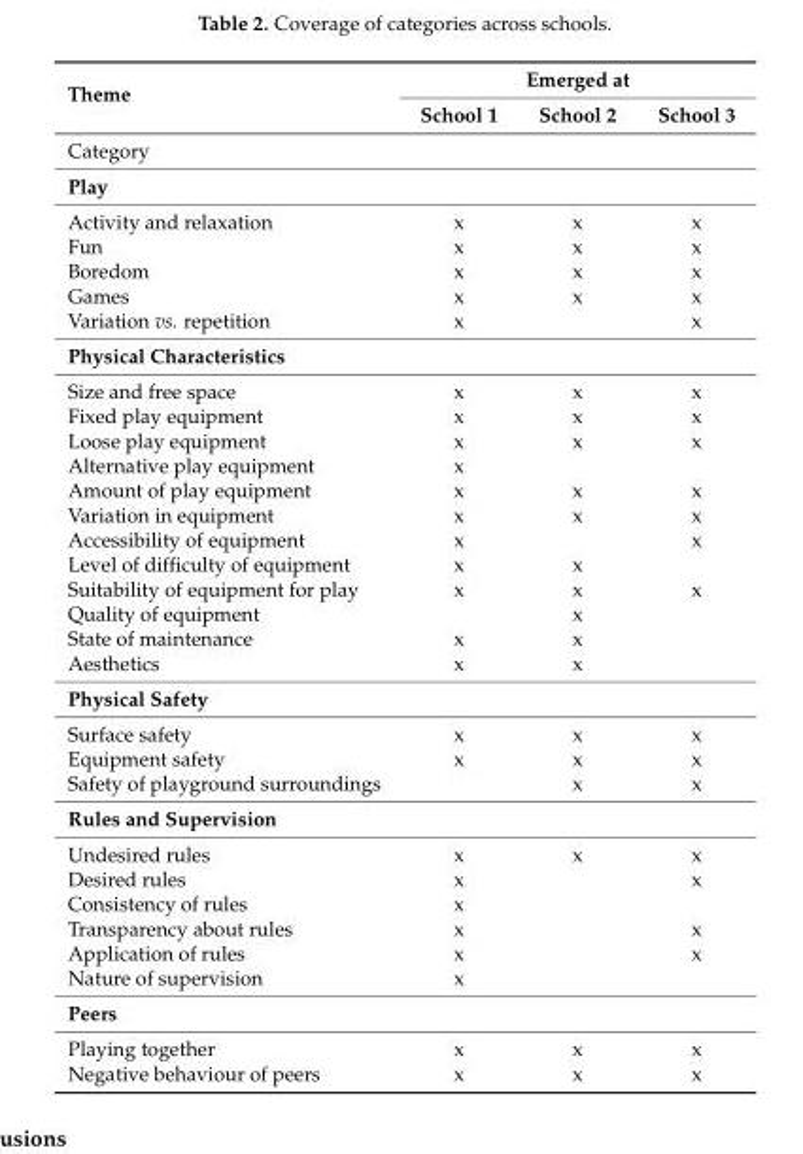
<table><thead><tr><td rowspan="2">Theme</td><td colspan="3">Emerged at</td></tr><tr><td>School 1</td><td>School 2</td><td>School 3</td></tr></thead><tbody><tr><td colspan="4">Category</td></tr><tr><td colspan="4">Play</td></tr><tr><td>Activity and relaxation</td><td>x</td><td>x</td><td>x</td></tr><tr><td>Fun</td><td>x</td><td>x</td><td>x</td></tr><tr><td>Boredom</td><td>x</td><td>x</td><td>x</td></tr><tr><td>Games</td><td>x</td><td>x</td><td>x</td></tr><tr><td>Variation vs. repetition</td><td>x</td><td></td><td>x</td></tr><tr><td colspan="4">Physical Characteristics</td></tr><tr><td>Size and free space</td><td>x</td><td>x</td><td>x</td></tr><tr><td>Fixed play equipment</td><td>x</td><td>x</td><td>x</td></tr><tr><td>Loose play equipment</td><td>x</td><td>x</td><td>x</td></tr><tr><td>Alternative play equipment</td><td>x</td><td></td><td></td></tr><tr><td>Amount of play equipment</td><td>x</td><td>x</td><td>x</td></tr><tr><td>Variation in equipment</td><td>x</td><td>x</td><td>x</td></tr><tr><td>Accessibility of equipment</td><td>x</td><td></td><td>x</td></tr><tr><td>Level of difficulty of equipment</td><td>x</td><td>x</td><td></td></tr><tr><td>Suitability of equipment for play</td><td>x</td><td>x</td><td>x</td></tr><tr><td>Quality of equipment</td><td></td><td>x</td><td></td></tr><tr><td>State of maintenance</td><td>x</td><td>x</td><td></td></tr><tr><td>Aesthetics</td><td>x</td><td>x</td><td></td></tr><tr><td colspan="4">Physical Safety</td></tr><tr><td>Surface safety</td><td>x</td><td>x</td><td>x</td></tr><tr><td>Equipment safety</td><td>x</td><td>x</td><td>x</td></tr><tr><td>Safety of playground surroundings</td><td></td><td>x</td><td>x</td></tr><tr><td colspan="4">Rules and Supervision</td></tr><tr><td>Undesired rules</td><td>x</td><td>x</td><td>x</td></tr><tr><td>Desired rules</td><td>x</td><td></td><td>x</td></tr><tr><td>Consistency of rules</td><td>x</td><td></td><td></td></tr><tr><td>Transparency about rules</td><td>x</td><td></td><td>x</td></tr><tr><td>Application of rules</td><td>x</td><td></td><td>x</td></tr><tr><td>Nature of supervision</td><td>x</td><td></td><td></td></tr><tr><td colspan="4">Peers</td></tr><tr><td>Playing together</td><td>x</td><td>x</td><td>x</td></tr><tr><td>Negative behaviour of peers</td><td>x</td><td>x</td><td>x</td></tr></tbody></table>